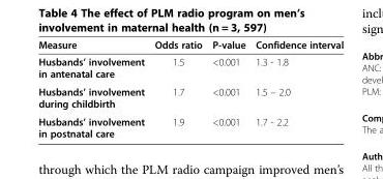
<table><thead><tr><td>Measure</td><td>Odds ratio</td><td>P-value</td><td>Confidence interval</td></tr></thead><tbody><tr><td>Husbands’ involvement in antenatal care</td><td>1.5</td><td>&lt;0.001</td><td>1.3 - 1.8</td></tr><tr><td>Husbands’ involvement during childbirth</td><td>1.7</td><td>&lt;0.001</td><td>1.5 – 2.0</td></tr><tr><td>Husbands’ involvement in postnatal care</td><td>1.9</td><td>&lt;0.001</td><td>1.7 - 2.2</td></tr></tbody></table>